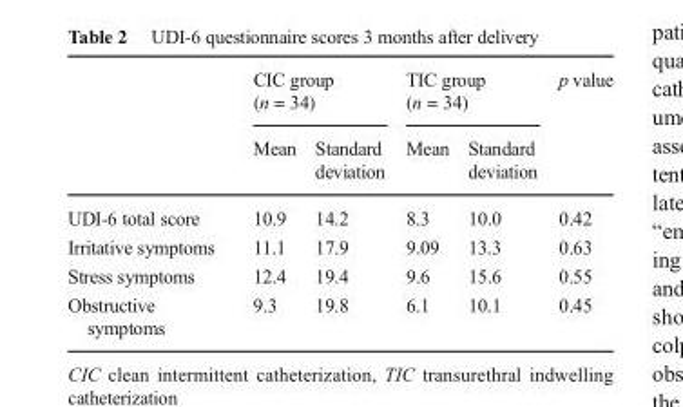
<table><thead><tr><td rowspan="2"></td><td colspan="2">CIC group (n = 34)</td><td colspan="2">TIC group (n = 34)</td><td rowspan="2">p value</td></tr><tr><td>Mean</td><td>Standard deviation</td><td>Mean</td><td>Standard deviation</td></tr></thead><tbody><tr><td>UDI-6 total score</td><td>10.9</td><td>14.2</td><td>8.3</td><td>10.0</td><td>0.42</td></tr><tr><td>Irritative symptoms</td><td>11.1</td><td>17.9</td><td>9.09</td><td>13.3</td><td>0.63</td></tr><tr><td>Stress symptoms</td><td>12.4</td><td>19.4</td><td>9.6</td><td>15.6</td><td>0.55</td></tr><tr><td>Obstructive symptoms</td><td>9.3</td><td>19.8</td><td>6.1</td><td>10.1</td><td>0.45</td></tr></tbody></table>